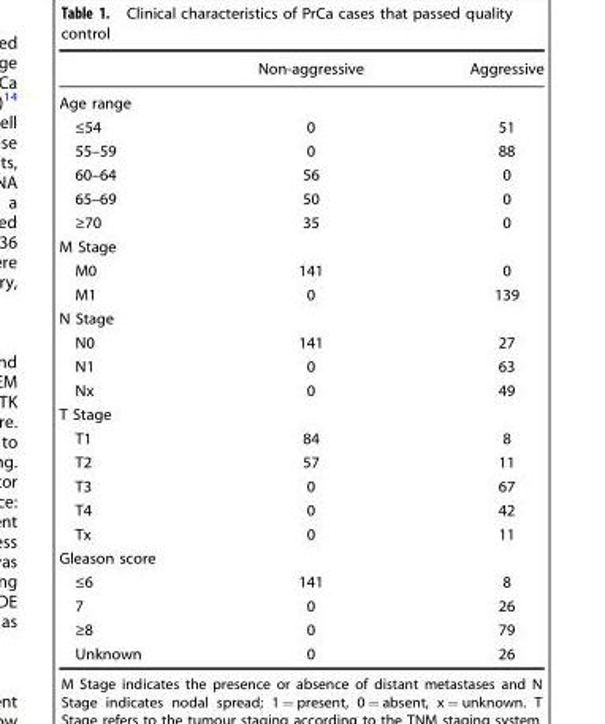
<table><thead><tr><td></td><td>Non-aggressive</td><td>Aggressive</td></tr></thead><tbody><tr><td colspan="3">Age range</td></tr><tr><td>≤54</td><td>0</td><td>51</td></tr><tr><td>55–59</td><td>0</td><td>88</td></tr><tr><td>60–64</td><td>56</td><td>0</td></tr><tr><td>65–69</td><td>50</td><td>0</td></tr><tr><td>≥70</td><td>35</td><td>0</td></tr><tr><td colspan="3">M Stage</td></tr><tr><td>M0</td><td>141</td><td>0</td></tr><tr><td>M1</td><td>0</td><td>139</td></tr><tr><td colspan="3">N Stage</td></tr><tr><td>N0</td><td>141</td><td>27</td></tr><tr><td>N1</td><td>0</td><td>63</td></tr><tr><td>Nx</td><td>0</td><td>49</td></tr><tr><td colspan="3">T Stage</td></tr><tr><td>T1</td><td>84</td><td>8</td></tr><tr><td>T2</td><td>57</td><td>11</td></tr><tr><td>T3</td><td>0</td><td>67</td></tr><tr><td>T4</td><td>0</td><td>42</td></tr><tr><td>Tx</td><td>0</td><td>11</td></tr><tr><td colspan="3">Gleason score</td></tr><tr><td>≤6</td><td>141</td><td>8</td></tr><tr><td>7</td><td>0</td><td>26</td></tr><tr><td>≥8</td><td>0</td><td>79</td></tr><tr><td>Unknown</td><td>0</td><td>26</td></tr></tbody></table>